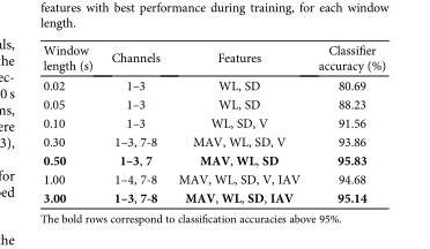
<table><thead><tr><td>Window length (s)</td><td>Channels</td><td>Features</td><td>Classifier accuracy (%)</td></tr></thead><tbody><tr><td>0.02</td><td>1–3</td><td>WL, SD</td><td>80.69</td></tr><tr><td>0.05</td><td>1–3</td><td>WL, SD</td><td>88.23</td></tr><tr><td>0.10</td><td>1–3</td><td>WL, SD, V</td><td>91.56</td></tr><tr><td>0.30</td><td>1–3, 7-8</td><td>MAV, WL, SD, V</td><td>93.86</td></tr><tr><td>0.50</td><td>1–3, 7</td><td>MAV, WL, SD</td><td>95.83</td></tr><tr><td>1.00</td><td>1–4, 7-8</td><td>MAV, WL, SD, V, IAV</td><td>94.68</td></tr><tr><td>3.00</td><td>1–3, 7-8</td><td>MAV, WL, SD, IAV</td><td>95.14</td></tr></tbody></table>